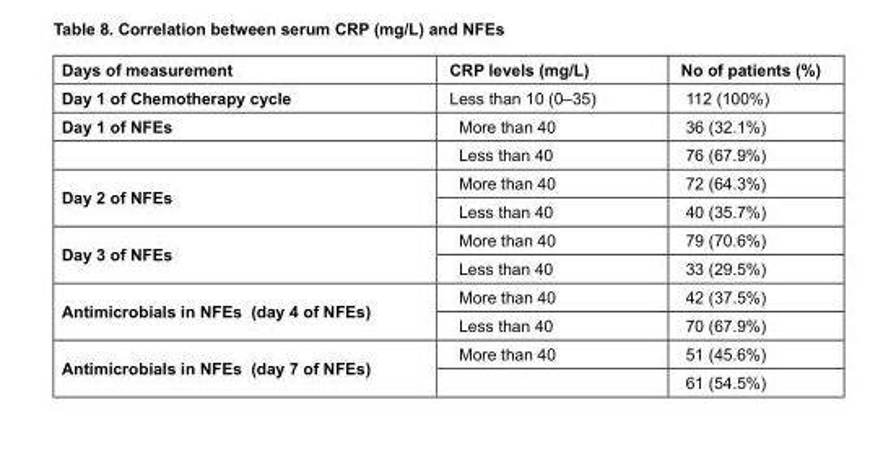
<table><thead><tr><td>Days of measurement</td><td>CRP levels (mg/L)</td><td>No of patients (%)</td></tr></thead><tbody><tr><td>Day 1 of Chemotherapy cycle</td><td>Less than 10 (0–35)</td><td>112 (100%)</td></tr><tr><td rowspan="2">Day 1 of NFEs</td><td>More than 40</td><td>36 (32.1%)</td></tr><tr><td>Less than 40</td><td>76 (67.9%)</td></tr><tr><td rowspan="2">Day 2 of NFEs</td><td>More than 40</td><td>72 (64.3%)</td></tr><tr><td>Less than 40</td><td>40 (35.7%)</td></tr><tr><td rowspan="2">Day 3 of NFEs</td><td>More than 40</td><td>79 (70.6%)</td></tr><tr><td>Less than 40</td><td>33 (29.5%)</td></tr><tr><td rowspan="2">Antimicrobials in NFEs (day 4 of NFEs)</td><td>More than 40</td><td>42 (37.5%)</td></tr><tr><td>Less than 40</td><td>70 (67.9%)</td></tr><tr><td rowspan="2">Antimicrobials in NFEs (day 7 of NFEs)</td><td>More than 40</td><td>51 (45.6%)</td></tr><tr><td></td><td>61 (54.5%)</td></tr></tbody></table>